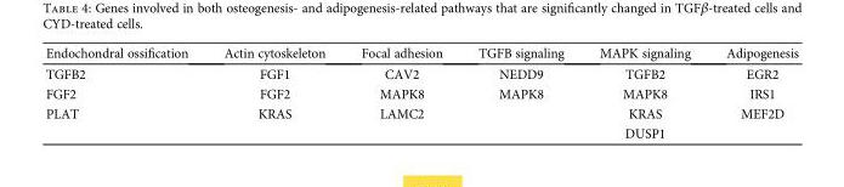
<table><thead><tr><td>Endochondral ossification</td><td>Actin cytoskeleton</td><td>Focal adhesion</td><td>TGFB signaling</td><td>MAPK signaling</td><td>Adipogenesis</td></tr></thead><tbody><tr><td>TGFB2</td><td>FGF1</td><td>CAV2</td><td>NEDD9</td><td>TGFB2</td><td>EGR2</td></tr><tr><td>FGF2</td><td>FGF2</td><td>MAPK8</td><td>MAPK8</td><td>MAPK8</td><td>IRS1</td></tr><tr><td rowspan="2">PLAT</td><td>KRAS</td><td>LAMC2</td><td></td><td>KRAS</td><td>MEF2D</td></tr><tr><td></td><td></td><td></td><td>DUSP1</td><td></td></tr></tbody></table>